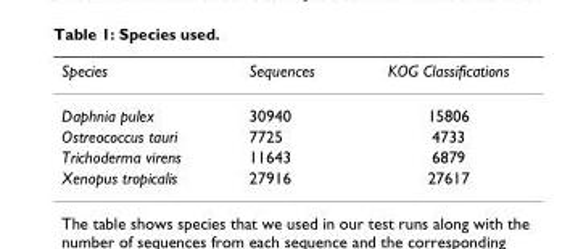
<table><thead><tr><td>Species</td><td>Sequences</td><td>KOG Classifications</td></tr></thead><tbody><tr><td>Daphnia pulex</td><td>30940</td><td>15806</td></tr><tr><td>Ostreococcus tauri</td><td>7725</td><td>4733</td></tr><tr><td>Trichoderma virens</td><td>11643</td><td>6879</td></tr><tr><td>Xenopus tropicalis</td><td>27916</td><td>27617</td></tr></tbody></table>